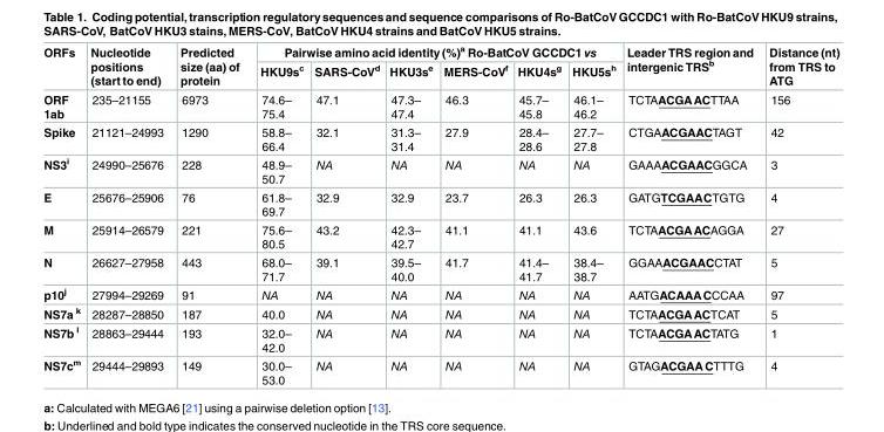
<table><thead><tr><td rowspan="2">ORFs</td><td rowspan="2">Nucleotide positions (start to end)</td><td rowspan="2">Predicted size (aa) of protein</td><td colspan="6">Pairwise amino acid identity (%)<sup>a</sup> Ro-BatCoV GCCDC1 vs</td><td rowspan="2">Leader TRS region and intergenic TRS<sup>b</sup></td><td rowspan="2">Distance (nt) from TRS to ATG</td></tr><tr><td>HKU9s<sup>c</sup></td><td>SARS-CoV<sup>d</sup></td><td>HKU3s<sup>e</sup></td><td>MERS-CoV<sup>f</sup></td><td>HKU4s<sup>g</sup></td><td>HKU5s<sup>h</sup></td></tr></thead><tbody><tr><td>ORF 1ab</td><td>235–21155</td><td>6973</td><td>74.6– 75.4</td><td>47.1</td><td>47.3– 47.4</td><td>46.3</td><td>45.7– 45.8</td><td>46.1– 46.2</td><td>TCTAACGAACTTAA</td><td>156</td></tr><tr><td>Spike</td><td>21121–24993</td><td>1290</td><td>58.8– 66.4</td><td>32.1</td><td>31.3– 31.4</td><td>27.9</td><td>28.4– 28.6</td><td>27.7– 27.8</td><td>CTGAACGAACTAGT</td><td>42</td></tr><tr><td>NS3<sup>i</sup></td><td>24990–25676</td><td>228</td><td>48.9– 50.7</td><td>NA</td><td>NA</td><td>NA</td><td>NA</td><td>NA</td><td>GAAAACGAACGGCA</td><td>3</td></tr><tr><td>E</td><td>25676–25906</td><td>76</td><td>61.8– 69.7</td><td>32.9</td><td>32.9</td><td>23.7</td><td>26.3</td><td>26.3</td><td>GATGTCGAACTGTG</td><td>4</td></tr><tr><td>M</td><td>25914–26579</td><td>221</td><td>75.6– 80.5</td><td>43.2</td><td>42.3– 42.7</td><td>41.1</td><td>41.1</td><td>43.6</td><td>TCTAACGAACAGGA</td><td>27</td></tr><tr><td>N</td><td>26627–27958</td><td>443</td><td>68.0– 71.7</td><td>39.1</td><td>39.5– 40.0</td><td>41.7</td><td>41.4– 41.7</td><td>38.4– 38.7</td><td>GGAAACGAACCTAT</td><td>5</td></tr><tr><td>p10<sup>j</sup></td><td>27994–29269</td><td>91</td><td>NA</td><td>NA</td><td>NA</td><td>NA</td><td>NA</td><td>NA</td><td>AATGACAAACCCAA</td><td>97</td></tr><tr><td>NS7a <sup>k</sup></td><td>28287–28850</td><td>187</td><td>40.0</td><td>NA</td><td>NA</td><td>NA</td><td>NA</td><td>NA</td><td>TCTAACGAACTCAT</td><td>5</td></tr><tr><td>NS7b <sup>l</sup></td><td>28863–29444</td><td>193</td><td>32.0– 42.0</td><td>NA</td><td>NA</td><td>NA</td><td>NA</td><td>NA</td><td>TCTAACGAACTATG</td><td>1</td></tr><tr><td>NS7c<sup>m</sup></td><td>29444–29893</td><td>149</td><td>30.0– 53.0</td><td>NA</td><td>NA</td><td>NA</td><td>NA</td><td>NA</td><td>GTAGACGAACTTTG</td><td>4</td></tr></tbody></table>